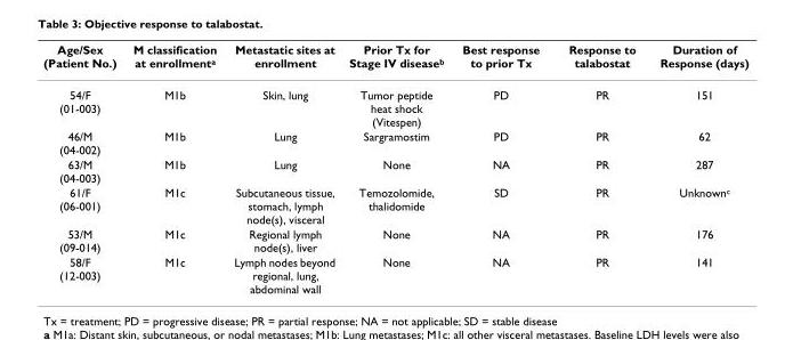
<table><thead><tr><td>Age/Sex (Patient No.)</td><td>M classification at enrollment<sup>a</sup></td><td>Metastatic sites at enrollment</td><td>Prior Tx for Stage IV disease<sup>b</sup></td><td>Best response to prior Tx</td><td>Response to talabostat</td><td>Duration of Response (days)</td></tr></thead><tbody><tr><td>54/F (01-003)</td><td>M1b</td><td>Skin, lung</td><td>Tumor peptide heat shock (Vitespen)</td><td>PD</td><td>PR</td><td>151</td></tr><tr><td>46/M (04-002)</td><td>M1b</td><td>Lung</td><td>Sargramostim</td><td>PD</td><td>PR</td><td>62</td></tr><tr><td>63/M (04-003)</td><td>M1b</td><td>Lung</td><td>None</td><td>NA</td><td>PR</td><td>287</td></tr><tr><td>61/F (06-001)</td><td>M1c</td><td>Subcutaneous tissue, stomach, lymph node(s), visceral</td><td>Temozolomide, thalidomide</td><td>SD</td><td>PR</td><td>Unknown<sup>c</sup></td></tr><tr><td>53/M (09-014)</td><td>M1c</td><td>Regional lymph node(s), liver</td><td>None</td><td>NA</td><td>PR</td><td>176</td></tr><tr><td>58/F (12-003)</td><td>M1c</td><td>Lymph nodes beyond regional, lung, abdominal wall</td><td>None</td><td>NA</td><td>PR</td><td>141</td></tr></tbody></table>